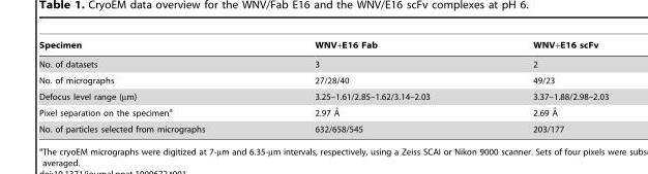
<table><thead><tr><td>Specimen</td><td>WNV+E16 Fab</td><td>WNV+E16 scFv</td></tr></thead><tbody><tr><td>No. of datasets</td><td>3</td><td>2</td></tr><tr><td>No. of micrographs</td><td>27/28/40</td><td>49/23</td></tr><tr><td>Defocus level range (µm)</td><td>3.25–1.61/2.85–1.62/3.14–2.03</td><td>3.37–1.88/2.98–2.03</td></tr><tr><td>Pixel separation on the specimen<sup>a</sup></td><td>2.97 A˚</td><td>2.69 A˚</td></tr><tr><td>No. of particles selected from micrographs</td><td>632/658/545</td><td>203/177</td></tr></tbody></table>